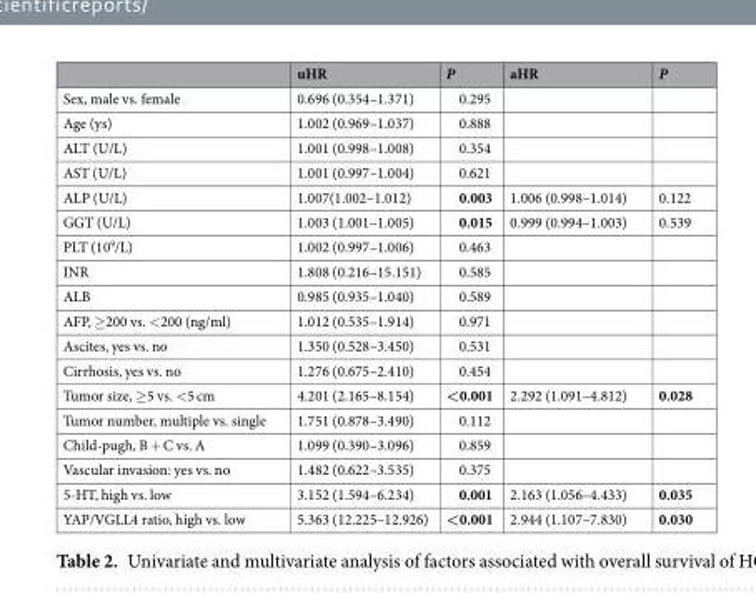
<table><thead><tr><td></td><td>uHR</td><td>P</td><td>aHR</td><td>P</td></tr></thead><tbody><tr><td>Sex, male vs. female</td><td>0.696 (0.354–1.371)</td><td>0.295</td><td></td><td></td></tr><tr><td>Age (ys)</td><td>1.002 (0.969–1.037)</td><td>0.888</td><td></td><td></td></tr><tr><td>ALT (U/L)</td><td>1.001 (0.998–1.008)</td><td>0.354</td><td></td><td></td></tr><tr><td>AST (U/L)</td><td>1.001 (0.997–1.004)</td><td>0.621</td><td></td><td></td></tr><tr><td>ALP (U/L)</td><td>1.007(1.002–1.012)</td><td>0.003</td><td>1.006 (0.998–1.014)</td><td>0.122</td></tr><tr><td>GGT (U/L)</td><td>1.003 (1.001–1.005)</td><td>0.015</td><td>0.999 (0.994–1.003)</td><td>0.539</td></tr><tr><td>PLT (10<sup>9</sup>/L)</td><td>1.002 (0.997–1.006)</td><td>0.463</td><td></td><td></td></tr><tr><td>INR</td><td>1.808 (0.216–15.151)</td><td>0.585</td><td></td><td></td></tr><tr><td>ALB</td><td>0.985 (0.935–1.040)</td><td>0.589</td><td></td><td></td></tr><tr><td>AFP, ≥200 vs. &lt;200 (ng/ml)</td><td>1.012 (0.535–1.914)</td><td>0.971</td><td></td><td></td></tr><tr><td>Ascites, yes vs. no</td><td>1.350 (0.528–3.450)</td><td>0.531</td><td></td><td></td></tr><tr><td>Cirrhosis, yes vs. no</td><td>1.276 (0.675–2.410)</td><td>0.454</td><td></td><td></td></tr><tr><td>Tumor size, ≥5 vs. &lt;5 cm</td><td>4.201 (2.165–8.154)</td><td>&lt;0.001</td><td>2.292 (1.091–4.812)</td><td>0.028</td></tr><tr><td>Tumor number, multiple vs. single</td><td>1.751 (0.878–3.490)</td><td>0.112</td><td></td><td></td></tr><tr><td>Child-pugh, B + C vs. A</td><td>1.099 (0.390–3.096)</td><td>0.859</td><td></td><td></td></tr><tr><td>Vascular invasion: yes vs. no</td><td>1.482 (0.622–3.535)</td><td>0.375</td><td></td><td></td></tr><tr><td>5-HT, high vs. low</td><td>3.152 (1.594–6.234)</td><td>0.001</td><td>2.163 (1.056–4.433)</td><td>0.035</td></tr><tr><td>YAP/VGLL4 ratio, high vs. low</td><td>5.363 (12.225–12.926)</td><td>&lt;0.001</td><td>2.944 (1.107–7.830)</td><td>0.030</td></tr></tbody></table>